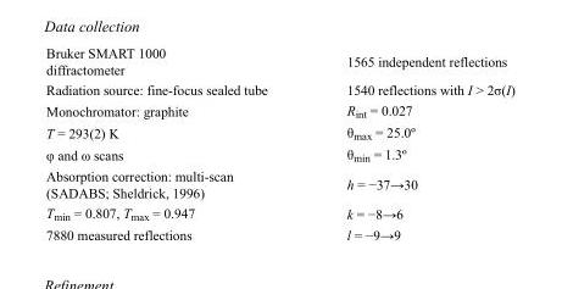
<table><tbody><tr><td>Bruker SMART 1000 diffractometer</td><td>1565 independent reflections</td></tr><tr><td>Radiation source: fine-focus sealed tube</td><td>1540 reflections with I &gt; 2σ(I)</td></tr><tr><td>Monochromator: graphite</td><td>R<sub>int</sub> = 0.027</td></tr><tr><td>T = 293(2) K</td><td>θ<sub>max</sub> = 25.0º</td></tr><tr><td>φ and ω scans</td><td>θ<sub>min</sub> = 1.3º</td></tr><tr><td>Absorption correction: multi-scan (SADABS; Sheldrick, 1996)</td><td>h = −37→30</td></tr><tr><td>T<sub>min</sub> = 0.807, T<sub>max</sub> = 0.947</td><td>k = −8→6</td></tr><tr><td>7880 measured reflections</td><td>l = −9→9</td></tr></tbody></table>